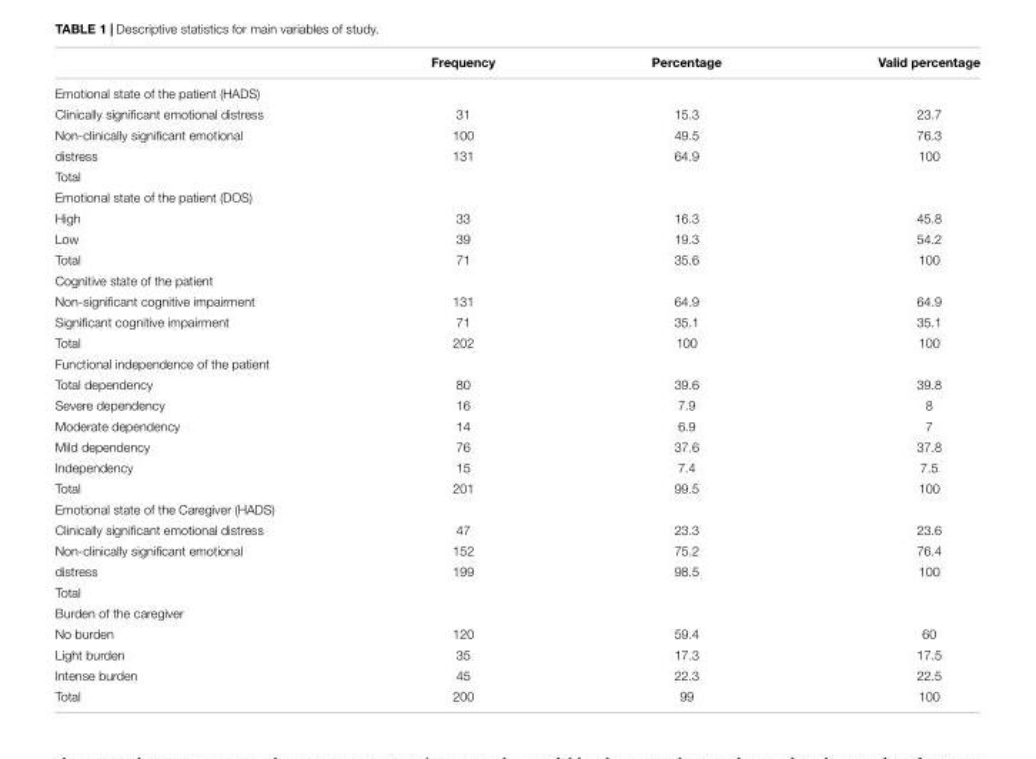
<table><thead><tr><td></td><td>Frequency</td><td>Percentage</td><td>Valid percentage</td></tr></thead><tbody><tr><td colspan="4">Emotional state of the patient (HADS)</td></tr><tr><td>Clinically significant emotional distress</td><td>31</td><td>15.3</td><td>23.7</td></tr><tr><td>Non-clinically significant emotional</td><td>100</td><td>49.5</td><td>76.3</td></tr><tr><td>distress</td><td>131</td><td>64.9</td><td>100</td></tr><tr><td colspan="4">Total</td></tr><tr><td colspan="4">Emotional state of the patient (DOS)</td></tr><tr><td>High</td><td>33</td><td>16.3</td><td>45.8</td></tr><tr><td>Low</td><td>39</td><td>19.3</td><td>54.2</td></tr><tr><td>Total</td><td>71</td><td>35.6</td><td>100</td></tr><tr><td colspan="4">Cognitive state of the patient</td></tr><tr><td>Non-significant cognitive impairment</td><td>131</td><td>64.9</td><td>64.9</td></tr><tr><td>Significant cognitive impairment</td><td>71</td><td>35.1</td><td>35.1</td></tr><tr><td>Total</td><td>202</td><td>100</td><td>100</td></tr><tr><td colspan="4">Functional independence of the patient</td></tr><tr><td>Total dependency</td><td>80</td><td>39.6</td><td>39.8</td></tr><tr><td>Severe dependency</td><td>16</td><td>7.9</td><td>8</td></tr><tr><td>Moderate dependency</td><td>14</td><td>6.9</td><td>7</td></tr><tr><td>Mild dependency</td><td>76</td><td>37.6</td><td>37.8</td></tr><tr><td>Independency</td><td>15</td><td>7.4</td><td>7.5</td></tr><tr><td>Total</td><td>201</td><td>99.5</td><td>100</td></tr><tr><td colspan="4">Emotional state of the Caregiver (HADS)</td></tr><tr><td>Clinically significant emotional distress</td><td>47</td><td>23.3</td><td>23.6</td></tr><tr><td>Non-clinically significant emotional</td><td>152</td><td>75.2</td><td>76.4</td></tr><tr><td>distress</td><td>199</td><td>98.5</td><td>100</td></tr><tr><td colspan="4">Total</td></tr><tr><td colspan="4">Burden of the caregiver</td></tr><tr><td>No burden</td><td>120</td><td>59.4</td><td>60</td></tr><tr><td>Light burden</td><td>35</td><td>17.3</td><td>17.5</td></tr><tr><td>Intense burden</td><td>45</td><td>22.3</td><td>22.5</td></tr><tr><td>Total</td><td>200</td><td>99</td><td>100</td></tr></tbody></table>